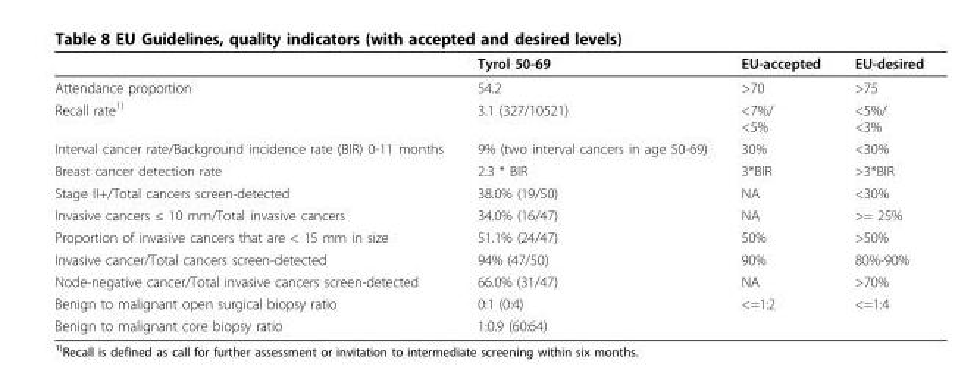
<table><thead><tr><td></td><td>Tyrol 50-69</td><td>EU-accepted</td><td>EU-desired</td></tr></thead><tbody><tr><td>Attendance proportion</td><td>54.2</td><td>&gt;70</td><td>&gt;75</td></tr><tr><td>Recall rate<sup>1)</sup></td><td>3.1 (327/10521)</td><td>&lt;7%/ &lt;5%</td><td>&lt;5%/ &lt;3%</td></tr><tr><td>Interval cancer rate/Background incidence rate (BIR) 0-11 months</td><td>9% (two interval cancers in age 50-69)</td><td>30%</td><td>&lt;30%</td></tr><tr><td>Breast cancer detection rate</td><td>2.3 * BIR</td><td>3*BIR</td><td>&gt;3*BIR</td></tr><tr><td>Stage II+/Total cancers screen-detected</td><td>38.0% (19/50)</td><td>NA</td><td>&lt;30%</td></tr><tr><td>Invasive cancers ≤ 10 mm/Total invasive cancers</td><td>34.0% (16/47)</td><td>NA</td><td>&gt;= 25%</td></tr><tr><td>Proportion of invasive cancers that are &lt; 15 mm in size</td><td>51.1% (24/47)</td><td>50%</td><td>&gt;50%</td></tr><tr><td>Invasive cancer/Total cancers screen-detected</td><td>94% (47/50)</td><td>90%</td><td>80%-90%</td></tr><tr><td>Node-negative cancer/Total invasive cancers screen-detected</td><td>66.0% (31/47)</td><td>NA</td><td>&gt;70%</td></tr><tr><td>Benign to malignant open surgical biopsy ratio</td><td>0:1 (0:4)</td><td>&lt;=1:2</td><td>&lt;=1:4</td></tr><tr><td>Benign to malignant core biopsy ratio</td><td>1:0.9 (60:64)</td><td></td><td></td></tr></tbody></table>